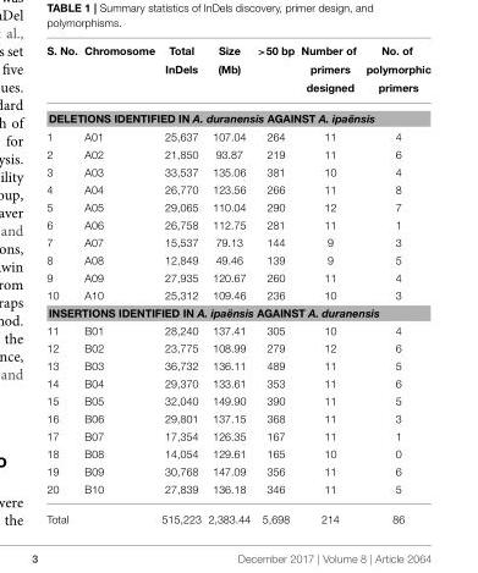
<table><thead><tr><td>S. No.</td><td>Chromosome</td><td>Total InDels</td><td>Size (Mb)</td><td>&gt;50 bp</td><td>Number of primers designed</td><td>No. of polymorphic primers</td></tr></thead><tbody><tr><td colspan="7">DELETIONS IDENTIFIED IN A. duranensis AGAINST A. ipaënsis</td></tr><tr><td>1</td><td>A01</td><td>25,637</td><td>107.04</td><td>264</td><td>11</td><td>4</td></tr><tr><td>2</td><td>A02</td><td>21,850</td><td>93.87</td><td>219</td><td>11</td><td>6</td></tr><tr><td>3</td><td>A03</td><td>33,537</td><td>135.06</td><td>381</td><td>10</td><td>4</td></tr><tr><td>4</td><td>A04</td><td>26,770</td><td>123.56</td><td>266</td><td>11</td><td>8</td></tr><tr><td>5</td><td>A05</td><td>29,065</td><td>110.04</td><td>290</td><td>12</td><td>7</td></tr><tr><td>6</td><td>A06</td><td>26,758</td><td>112.75</td><td>281</td><td>11</td><td>1</td></tr><tr><td>7</td><td>A07</td><td>15,537</td><td>79.13</td><td>144</td><td>9</td><td>3</td></tr><tr><td>8</td><td>A08</td><td>12,849</td><td>49.46</td><td>139</td><td>9</td><td>5</td></tr><tr><td>9</td><td>A09</td><td>27,935</td><td>120.67</td><td>260</td><td>11</td><td>4</td></tr><tr><td>10</td><td>A10</td><td>25,312</td><td>109.46</td><td>236</td><td>10</td><td>3</td></tr><tr><td colspan="7">INSERTIONS IDENTIFIED IN A. ipaënsis AGAINST A. duranensis</td></tr><tr><td>11</td><td>B01</td><td>28,240</td><td>137.41</td><td>305</td><td>10</td><td>4</td></tr><tr><td>12</td><td>B02</td><td>23,775</td><td>108.99</td><td>279</td><td>12</td><td>6</td></tr><tr><td>13</td><td>B03</td><td>36,732</td><td>136.11</td><td>489</td><td>11</td><td>5</td></tr><tr><td>14</td><td>B04</td><td>29,370</td><td>133.61</td><td>353</td><td>11</td><td>6</td></tr><tr><td>15</td><td>B05</td><td>32,040</td><td>149.90</td><td>390</td><td>11</td><td>5</td></tr><tr><td>16</td><td>B06</td><td>29,801</td><td>137.15</td><td>368</td><td>11</td><td>3</td></tr><tr><td>17</td><td>B07</td><td>17,354</td><td>126.35</td><td>167</td><td>11</td><td>1</td></tr><tr><td>18</td><td>B08</td><td>14,054</td><td>129.61</td><td>165</td><td>10</td><td>0</td></tr><tr><td>19</td><td>B09</td><td>30,768</td><td>147.09</td><td>356</td><td>11</td><td>6</td></tr><tr><td>20</td><td>B10</td><td>27,839</td><td>136.18</td><td>346</td><td>11</td><td>5</td></tr><tr><td>Total</td><td></td><td>515,223</td><td>2,383.44</td><td>5,698</td><td>214</td><td>86</td></tr></tbody></table>